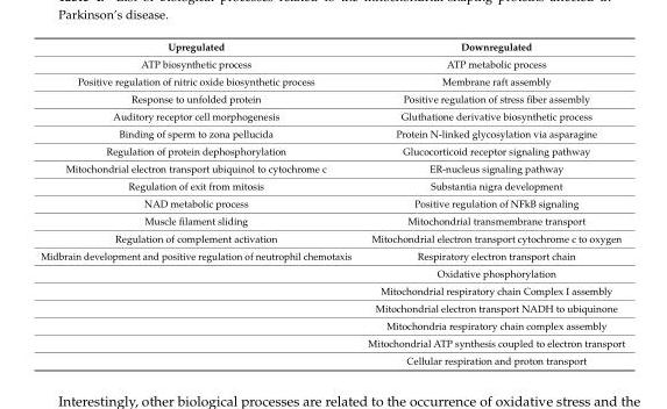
<table><thead><tr><td>Upregulated</td><td>Downregulated</td></tr></thead><tbody><tr><td>ATP biosynthetic process</td><td>ATP metabolic process</td></tr><tr><td>Positive regulation of nitric oxide biosynthetic process</td><td>Membrane raft assembly</td></tr><tr><td>Response to unfolded protein</td><td>Positive regulation of stress fiber assembly</td></tr><tr><td>Auditory receptor cell morphogenesis</td><td>Gluthatione derivative biosynthetic process</td></tr><tr><td>Binding of sperm to zona pellucida</td><td>Protein N-linked glycosylation via asparagine</td></tr><tr><td>Regulation of protein dephosphorylation</td><td>Glucocorticoid receptor signaling pathway</td></tr><tr><td>Mitochondrial electron transport ubiquinol to cytochrome c</td><td>ER-nucleus signaling pathway</td></tr><tr><td>Regulation of exit from mitosis</td><td>Substantia nigra development</td></tr><tr><td>NAD metabolic process</td><td>Positive regulation of NFkB signaling</td></tr><tr><td>Muscle filament sliding</td><td>Mitochondrial transmembrane transport</td></tr><tr><td>Regulation of complement activation</td><td>Mitochondrial electron transport cytochrome c to oxygen</td></tr><tr><td rowspan="7">Midbrain development and positive regulation of neutrophil chemotaxis</td><td>Respiratory electron transport chain</td></tr><tr><td>Oxidative phosphorylation</td></tr><tr><td>Mitochondrial respiratory chain Complex I assembly</td></tr><tr><td>Mitochondrial electron transport NADH to ubiquinone</td></tr><tr><td>Mitochondria respiratory chain complex assembly</td></tr><tr><td>Mitochondrial ATP synthesis coupled to electron transport</td></tr><tr><td>Cellular respiration and proton transport</td></tr></tbody></table>